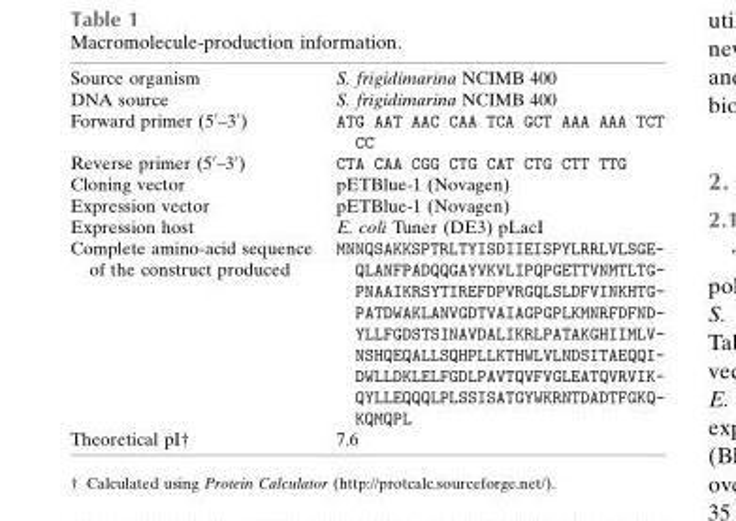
<table><tbody><tr><td>Source organism</td><td>S. frigidimarina NCIMB 400</td></tr><tr><td>DNA source</td><td>S. frigidimarina NCIMB 400</td></tr><tr><td>Forward primer (5′–3′)</td><td>ATG AAT AAC CAA TCA GCT AAA AAA TCT CC</td></tr><tr><td>Reverse primer (5′–3′)</td><td>CTA CAA CGG CTG CAT CTG CTT TTG</td></tr><tr><td>Cloning vector</td><td>pETBlue-1 (Novagen)</td></tr><tr><td>Expression vector</td><td>pETBlue-1 (Novagen)</td></tr><tr><td>Expression host</td><td>E. coli Tuner (DE3) pLacI</td></tr><tr><td>Complete amino-acid sequence of the construct produced</td><td>MNNQSAKKSPTRLTYISDIIEISPYLRRLVLSGE- QLANFPADQQGAYVKVLIPQPGETTVNMTLTG- PNAAIKRSYTIREFDPVRGQLSLDFVINKHTG- PATDWAKLANVGDTVAIAGPGPLKMNRFDFND- YLLFGDSTSINAVDALIKRLPATAKGHIIMLV- NSHQEQALLSQHPLLKTHWLVLNDSITAEQQI- DWLLDKLELFGDLPAVTQVFVGLEATQVRVIK- QYLLEQQQLPLSSISATGYWKRNTDADTFGKQ- KQMQPL</td></tr><tr><td>Theoretical pI†</td><td>7.6</td></tr></tbody></table>